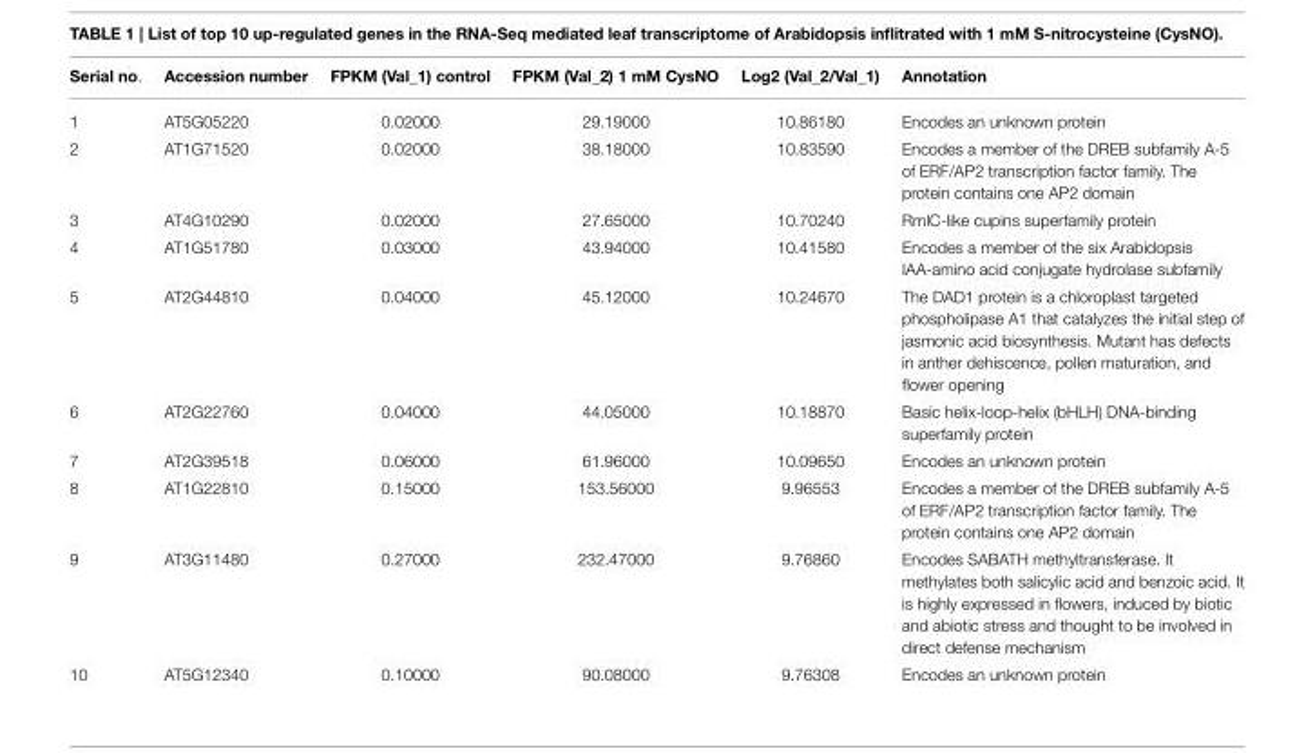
<table><thead><tr><td>Serial no.</td><td>Accession number</td><td>FPKM (Val_1) control</td><td>FPKM (Val_2) 1 mM CysNO</td><td>Log2 (Val_2/Val_1)</td><td>Annotation</td></tr></thead><tbody><tr><td>1</td><td>AT5G05220</td><td>0.02000</td><td>29.19000</td><td>10.86180</td><td>Encodes an unknown protein</td></tr><tr><td>2</td><td>AT1G71520</td><td>0.02000</td><td>38.18000</td><td>10.83590</td><td>Encodes a member of the DREB subfamily A-5 of ERF/AP2 transcription factor family. The protein contains one AP2 domain</td></tr><tr><td>3</td><td>AT4G10290</td><td>0.02000</td><td>27.65000</td><td>10.70240</td><td>RmlC-like cupins superfamily protein</td></tr><tr><td>4</td><td>AT1G51780</td><td>0.03000</td><td>43.94000</td><td>10.41580</td><td>Encodes a member of the six Arabidopsis IAA-amino acid conjugate hydrolase subfamily</td></tr><tr><td>5</td><td>AT2G44810</td><td>0.04000</td><td>45.12000</td><td>10.24670</td><td>The DAD1 protein is a chloroplast targeted phospholipase A1 that catalyzes the initial step of jasmonic acid biosynthesis. Mutant has defects in anther dehiscence, pollen maturation, and flower opening</td></tr><tr><td>6</td><td>AT2G22760</td><td>0.04000</td><td>44.05000</td><td>10.18870</td><td>Basic helix-loop-helix (bHLH) DNA-binding superfamily protein</td></tr><tr><td>7</td><td>AT2G39518</td><td>0.06000</td><td>61.96000</td><td>10.09650</td><td>Encodes an unknown protein</td></tr><tr><td>8</td><td>AT1G22810</td><td>0.15000</td><td>153.56000</td><td>9.96553</td><td>Encodes a member of the DREB subfamily A-5 of ERF/AP2 transcription factor family. The protein contains one AP2 domain</td></tr><tr><td>9</td><td>AT3G11480</td><td>0.27000</td><td>232.47000</td><td>9.76860</td><td>Encodes SABATH methyltransferase. It methylates both salicylic acid and benzoic acid. It is highly expressed in flowers, induced by biotic and abiotic stress and thought to be involved in direct defense mechanism</td></tr><tr><td>10</td><td>AT5G12340</td><td>0.10000</td><td>90.08000</td><td>9.76308</td><td>Encodes an unknown protein</td></tr></tbody></table>